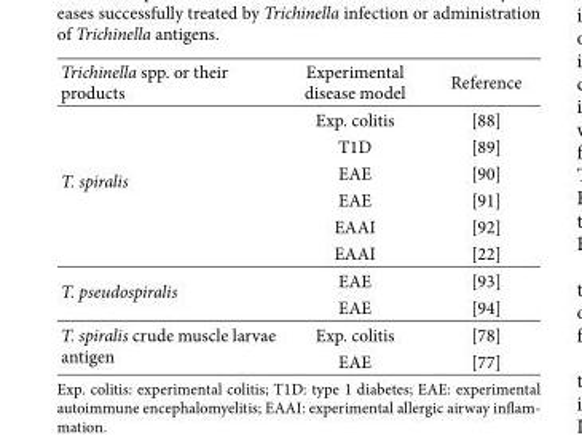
<table><thead><tr><td>Trichinella spp. or their products</td><td>Experimental disease model</td><td>Reference</td></tr></thead><tbody><tr><td rowspan="6">T. spiralis</td><td>Exp. colitis</td><td>[88]</td></tr><tr><td>T1D</td><td>[89]</td></tr><tr><td>EAE</td><td>[90]</td></tr><tr><td>EAE</td><td>[91]</td></tr><tr><td>EAAI</td><td>[92]</td></tr><tr><td>EAAI</td><td>[22]</td></tr><tr><td rowspan="2">T. pseudospiralis</td><td>EAE</td><td>[93]</td></tr><tr><td>EAE</td><td>[94]</td></tr><tr><td rowspan="2">T. spiralis crude muscle larvae antigen</td><td>Exp. colitis</td><td>[78]</td></tr><tr><td>EAE</td><td>[77]</td></tr></tbody></table>